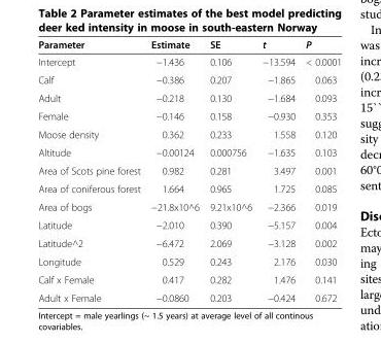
<table><thead><tr><td>Parameter</td><td>Estimate</td><td>SE</td><td>t</td><td>P</td></tr></thead><tbody><tr><td>Intercept</td><td>−1.436</td><td>0.106</td><td>−13.594</td><td>&lt; 0.0001</td></tr><tr><td>Calf</td><td>−0.386</td><td>0.207</td><td>−1.865</td><td>0.063</td></tr><tr><td>Adult</td><td>−0.218</td><td>0.130</td><td>−1.684</td><td>0.093</td></tr><tr><td>Female</td><td>−0.146</td><td>0.158</td><td>−0.930</td><td>0.353</td></tr><tr><td>Moose density</td><td>0.362</td><td>0.233</td><td>1.558</td><td>0.120</td></tr><tr><td>Altitude</td><td>−0.00124</td><td>0.000756</td><td>−1.635</td><td>0.103</td></tr><tr><td>Area of Scots pine forest</td><td>0.982</td><td>0.281</td><td>3.497</td><td>0.001</td></tr><tr><td>Area of coniferous forest</td><td>1.664</td><td>0.965</td><td>1.725</td><td>0.085</td></tr><tr><td>Area of bogs</td><td>−21.8x10^6</td><td>9.21x10^6</td><td>−2.366</td><td>0.019</td></tr><tr><td>Latitude</td><td>−2.010</td><td>0.390</td><td>−5.157</td><td>0.004</td></tr><tr><td>Latitude^2</td><td>−6.472</td><td>2.069</td><td>−3.128</td><td>0.002</td></tr><tr><td>Longitude</td><td>0.529</td><td>0.243</td><td>2.176</td><td>0.030</td></tr><tr><td>Calf x Female</td><td>0.417</td><td>0.282</td><td>1.476</td><td>0.141</td></tr><tr><td>Adult x Female</td><td>−0.0860</td><td>0.203</td><td>−0.424</td><td>0.672</td></tr></tbody></table>